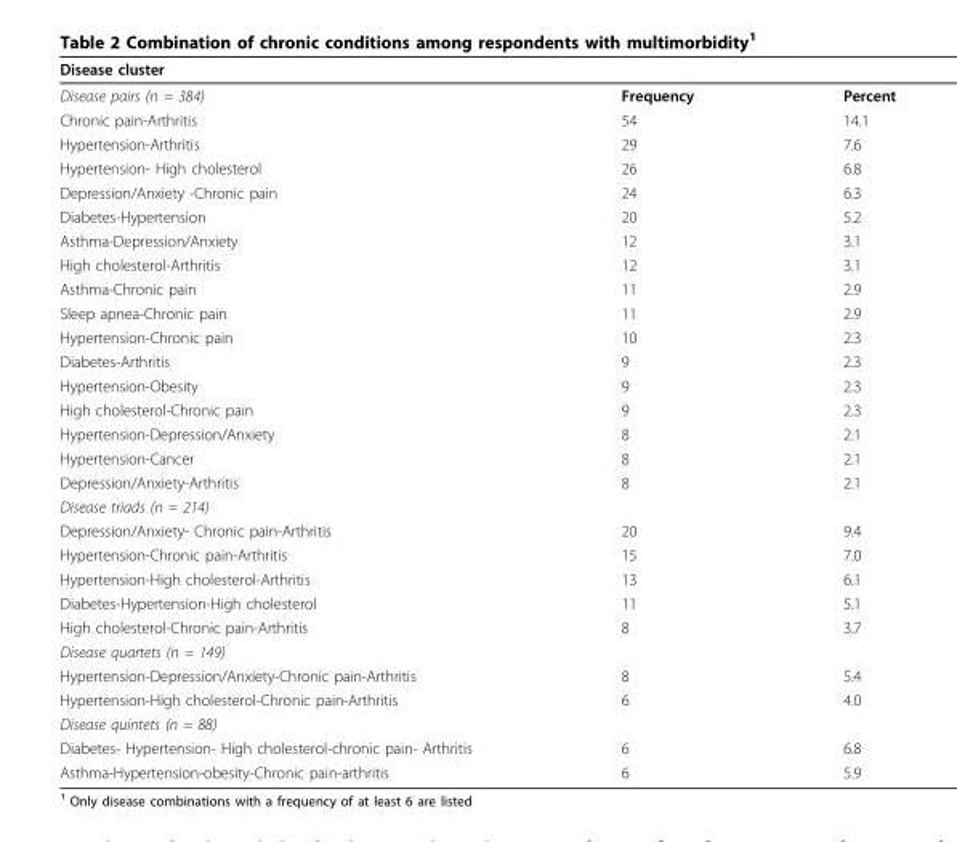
<table><thead><tr><td>Disease cluster</td><td></td><td></td></tr></thead><tbody><tr><td>Disease pairs (n = 384)</td><td>Frequency</td><td>Percent</td></tr><tr><td>Chronic pain-Arthritis</td><td>54</td><td>14.1</td></tr><tr><td>Hypertension-Arthritis</td><td>29</td><td>7.6</td></tr><tr><td>Hypertension- High cholesterol</td><td>26</td><td>6.8</td></tr><tr><td>Depression/Anxiety -Chronic pain</td><td>24</td><td>6.3</td></tr><tr><td>Diabetes-Hypertension</td><td>20</td><td>5.2</td></tr><tr><td>Asthma-Depression/Anxiety</td><td>12</td><td>3.1</td></tr><tr><td>High cholesterol-Arthritis</td><td>12</td><td>3.1</td></tr><tr><td>Asthma-Chronic pain</td><td>11</td><td>2.9</td></tr><tr><td>Sleep apnea-Chronic pain</td><td>11</td><td>2.9</td></tr><tr><td>Hypertension-Chronic pain</td><td>10</td><td>2.3</td></tr><tr><td>Diabetes-Arthritis</td><td>9</td><td>2.3</td></tr><tr><td>Hypertension-Obesity</td><td>9</td><td>2.3</td></tr><tr><td>High cholesterol-Chronic pain</td><td>9</td><td>2.3</td></tr><tr><td>Hypertension-Depression/Anxiety</td><td>8</td><td>2.1</td></tr><tr><td>Hypertension-Cancer</td><td>8</td><td>2.1</td></tr><tr><td>Depression/Anxiety-Arthritis</td><td>8</td><td>2.1</td></tr><tr><td colspan="3">Disease triads (n = 214)</td></tr><tr><td>Depression/Anxiety- Chronic pain-Arthritis</td><td>20</td><td>9.4</td></tr><tr><td>Hypertension-Chronic pain-Arthritis</td><td>15</td><td>7.0</td></tr><tr><td>Hypertension-High cholesterol-Arthritis</td><td>13</td><td>6.1</td></tr><tr><td>Diabetes-Hypertension-High cholesterol</td><td>11</td><td>5.1</td></tr><tr><td>High cholesterol-Chronic pain-Arthritis</td><td>8</td><td>3.7</td></tr><tr><td colspan="3">Disease quartets (n = 149)</td></tr><tr><td>Hypertension-Depression/Anxiety-Chronic pain-Arthritis</td><td>8</td><td>5.4</td></tr><tr><td>Hypertension-High cholesterol-Chronic pain-Arthritis</td><td>6</td><td>4.0</td></tr><tr><td colspan="3">Disease quintets (n = 88)</td></tr><tr><td>Diabetes- Hypertension- High cholesterol-chronic pain- Arthritis</td><td>6</td><td>6.8</td></tr><tr><td>Asthma-Hypertension-obesity-Chronic pain-arthritis</td><td>6</td><td>5.9</td></tr></tbody></table>